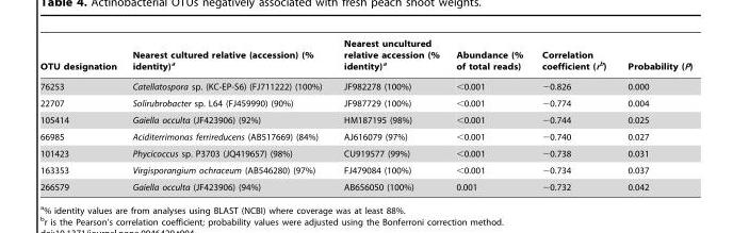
<table><thead><tr><td>OTU designation</td><td>Nearest cultured relative (accession) (% identity)<sup>a</sup></td><td>Nearest uncultured relative accession (% identity)<sup>a</sup></td><td>Abundance (% of total reads)</td><td>Correlation coefficient (rb)</td><td>Probability (P)</td></tr></thead><tbody><tr><td>76253</td><td>Catellatospora sp. (KC-EP-S6) (FJ711222) (100%)</td><td>JF982278 (100%)</td><td>&lt;0.001</td><td>−0.826</td><td>0.000</td></tr><tr><td>22707</td><td>Solirubrobacter sp. L64 (FJ459990) (90%)</td><td>JF987729 (100%)</td><td>&lt;0.001</td><td>−0.774</td><td>0.004</td></tr><tr><td>105414</td><td>Gaiella occulta (JF423906) (92%)</td><td>HM187195 (98%)</td><td>&lt;0.001</td><td>−0.744</td><td>0.025</td></tr><tr><td>66985</td><td>Aciditerrimonas ferrireducens (AB517669) (84%)</td><td>AJ616079 (97%)</td><td>&lt;0.001</td><td>−0.740</td><td>0.027</td></tr><tr><td>101423</td><td>Phycicoccus sp. P3703 (JQ419657) (98%)</td><td>CU919577 (99%)</td><td>&lt;0.001</td><td>−0.738</td><td>0.031</td></tr><tr><td>163353</td><td>Virgisporangium ochraceum (AB546280) (97%)</td><td>FJ479084 (100%)</td><td>&lt;0.001</td><td>−0.734</td><td>0.037</td></tr><tr><td>266579</td><td>Gaiella occulta (JF423906) (94%)</td><td>AB656050 (100%)</td><td>0.001</td><td>−0.732</td><td>0.042</td></tr></tbody></table>